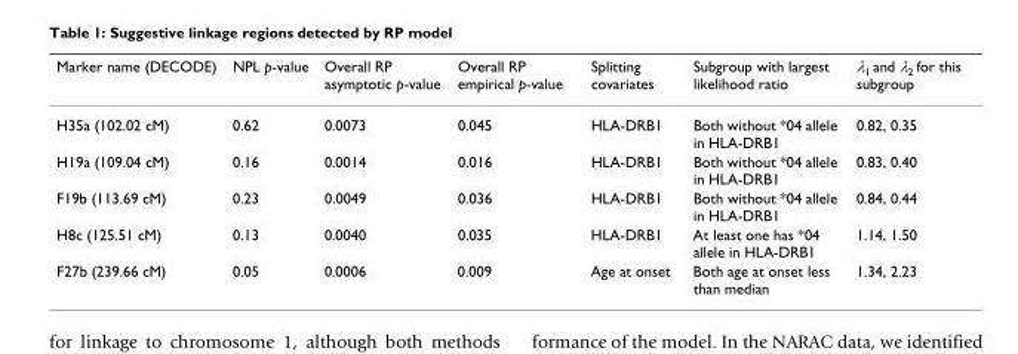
<table><thead><tr><td>Marker name (DECODE)</td><td>NPL p-value</td><td>Overall RP asymptotic p-value</td><td>Overall RP empirical p-value</td><td>Splitting covariates</td><td>Subgroup with largest likelihood ratio</td><td>λ<sub>1</sub> and λ<sub>2</sub> for this subgroup</td></tr></thead><tbody><tr><td>H35a (102.02 cM)</td><td>0.62</td><td>0.0073</td><td>0.045</td><td>HLA-DRB1</td><td>Both without *04 allele in HLA-DRB1</td><td>0.82, 0.35</td></tr><tr><td>H19a (109.04 cM)</td><td>0.16</td><td>0.0014</td><td>0.016</td><td>HLA-DRB1</td><td>Both without *04 allele in HLA-DRB1</td><td>0.83, 0.40</td></tr><tr><td>F19b (113.69 cM)</td><td>0.23</td><td>0.0049</td><td>0.036</td><td>HLA-DRB1</td><td>Both without *04 allele in HLA-DRB1</td><td>0.84, 0.44</td></tr><tr><td>H8c (125.51 cM)</td><td>0.13</td><td>0.0040</td><td>0.035</td><td>HLA-DRB1</td><td>At least one has *04 allele in HLA-DRB1</td><td>1.14, 1.50</td></tr><tr><td>F27b (239.66 cM)</td><td>0.05</td><td>0.0006</td><td>0.009</td><td>Age at onset</td><td>Both age at onset less than median</td><td>1.34, 2.23</td></tr></tbody></table>